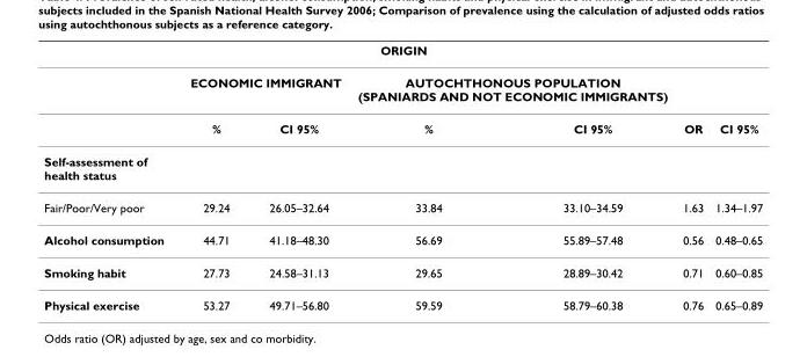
<table><thead><tr><td colspan="7">ORIGIN</td></tr><tr><td rowspan="2"></td><td colspan="2">ECONOMIC IMMIGRANT</td><td colspan="2">AUTOCHTHONOUS POPULATION (SPANIARDS AND NOT ECONOMIC IMMIGRANTS)</td><td rowspan="2">OR</td><td rowspan="2">CI 95%</td></tr><tr><td>%</td><td>CI 95%</td><td>%</td><td>CI 95%</td></tr></thead><tbody><tr><td colspan="7">Self-assessment of health status</td></tr><tr><td>Fair/Poor/Very poor</td><td>29.24</td><td>26.05–32.64</td><td>33.84</td><td>33.10–34.59</td><td>1.63</td><td>1.34–1.97</td></tr><tr><td>Alcohol consumption</td><td>44.71</td><td>41.18–48.30</td><td>56.69</td><td>55.89–57.48</td><td>0.56</td><td>0.48–0.65</td></tr><tr><td>Smoking habit</td><td>27.73</td><td>24.58–31.13</td><td>29.65</td><td>28.89–30.42</td><td>0.71</td><td>0.60–0.85</td></tr><tr><td>Physical exercise</td><td>53.27</td><td>49.71–56.80</td><td>59.59</td><td>58.79–60.38</td><td>0.76</td><td>0.65–0.89</td></tr></tbody></table>